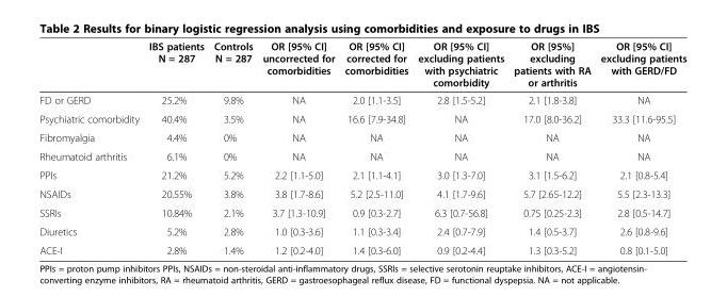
<table><thead><tr><td></td><td>IBS patients N = 287</td><td>Controls N = 287</td><td>OR [95% CI] uncorrected for comorbidities</td><td>OR [95% CI] corrected for comorbidities</td><td>OR [95% CI] excluding patients with psychiatric comorbidity</td><td>OR [95%] excluding patients with RA or arthritis</td><td>OR [95% CI] excluding patients with GERD/FD</td></tr></thead><tbody><tr><td>FD or GERD</td><td>25.2%</td><td>9.8%</td><td>NA</td><td>2.0 [1.1-3.5]</td><td>2.8 [1.5-5.2]</td><td>2.1 [1.8-3.8]</td><td>NA</td></tr><tr><td>Psychiatric comorbidity</td><td>40.4%</td><td>3.5%</td><td>NA</td><td>16.6 [7.9-34.8]</td><td>NA</td><td>17.0 [8.0-36.2]</td><td>33.3 [11.6-95.5]</td></tr><tr><td>Fibromyalgia</td><td>4.4%</td><td>0%</td><td>NA</td><td>NA</td><td>NA</td><td>NA</td><td>NA</td></tr><tr><td>Rheumatoid arthritis</td><td>6.1%</td><td>0%</td><td>NA</td><td>NA</td><td>NA</td><td>NA</td><td>NA</td></tr><tr><td>PPIs</td><td>21.2%</td><td>5.2%</td><td>2.2 [1.1-5.0]</td><td>2.1 [1.1-4.1]</td><td>3.0 [1.3-7.0]</td><td>3.1 [1.5-6.2]</td><td>2.1 [0.8-5.4]</td></tr><tr><td>NSAIDs</td><td>20.55%</td><td>3.8%</td><td>3.8 [1.7-8.6]</td><td>5.2 [2.5-11.0]</td><td>4.1 [1.7-9.6]</td><td>5.7 [2.65-12.2]</td><td>5.5 [2.3-13.3]</td></tr><tr><td>SSRIs</td><td>10.84%</td><td>2.1%</td><td>3.7 [1.3-10.9]</td><td>0.9 [0.3-2.7]</td><td>6.3 [0.7-56.8]</td><td>0.75 [0.25-2.3]</td><td>2.8 [0.5-14.7]</td></tr><tr><td>Diuretics</td><td>5.2%</td><td>2.8%</td><td>1.0 [0.3-3.6]</td><td>1.1 [0.3-3.4]</td><td>2.4 [0.7-7.9]</td><td>1.4 [0.5-3.7]</td><td>2.6 [0.8-9.6]</td></tr><tr><td>ACE-I</td><td>2.8%</td><td>1.4%</td><td>1.2 [0.2-4.0]</td><td>1.4 [0.3-6.0]</td><td>0.9 [0.2-4.4]</td><td>1.3 [0.3-5.2]</td><td>0.8 [0.1-5.0]</td></tr></tbody></table>